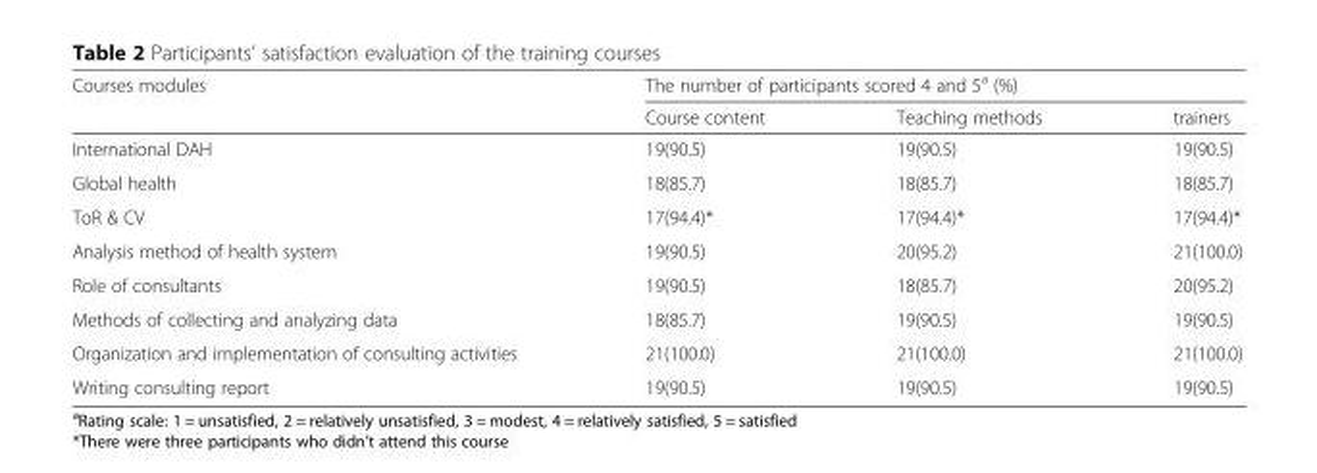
<table><thead><tr><td rowspan="2">Courses modules</td><td colspan="3">The number of participants scored 4 and 5<sup>a</sup> (%)</td></tr><tr><td>Course content</td><td>Teaching methods</td><td>trainers</td></tr></thead><tbody><tr><td>International DAH</td><td>19(90.5)</td><td>19(90.5)</td><td>19(90.5)</td></tr><tr><td>Global health</td><td>18(85.7)</td><td>18(85.7)</td><td>18(85.7)</td></tr><tr><td>ToR &amp; CV</td><td>17(94.4)*</td><td>17(94.4)*</td><td>17(94.4)*</td></tr><tr><td>Analysis method of health system</td><td>19(90.5)</td><td>20(95.2)</td><td>21(100.0)</td></tr><tr><td>Role of consultants</td><td>19(90.5)</td><td>18(85.7)</td><td>20(95.2)</td></tr><tr><td>Methods of collecting and analyzing data</td><td>18(85.7)</td><td>19(90.5)</td><td>19(90.5)</td></tr><tr><td>Organization and implementation of consulting activities</td><td>21(100.0)</td><td>21(100.0)</td><td>21(100.0)</td></tr><tr><td>Writing consulting report</td><td>19(90.5)</td><td>19(90.5)</td><td>19(90.5)</td></tr></tbody></table>